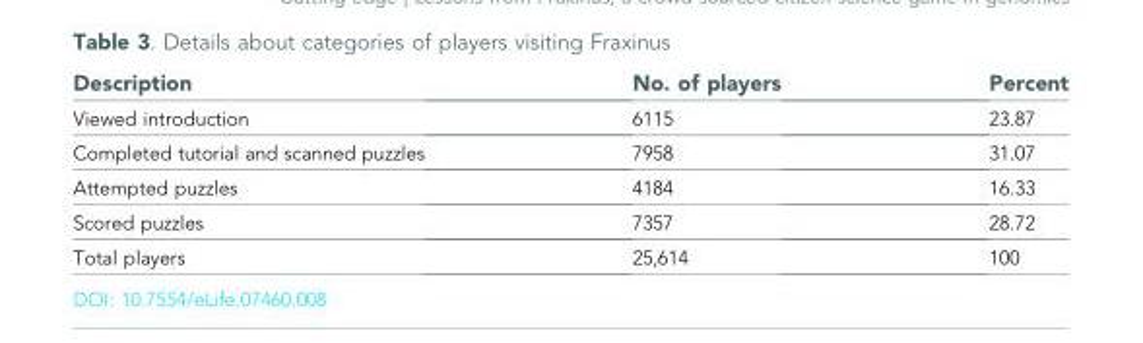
<table><thead><tr><td>Description</td><td>No. of players</td><td>Percent</td></tr></thead><tbody><tr><td>Viewed introduction</td><td>6115</td><td>23.87</td></tr><tr><td>Completed tutorial and scanned puzzles</td><td>7958</td><td>31.07</td></tr><tr><td>Attempted puzzles</td><td>4184</td><td>16.33</td></tr><tr><td>Scored puzzles</td><td>7357</td><td>28.72</td></tr><tr><td>Total players</td><td>25,614</td><td>100</td></tr></tbody></table>